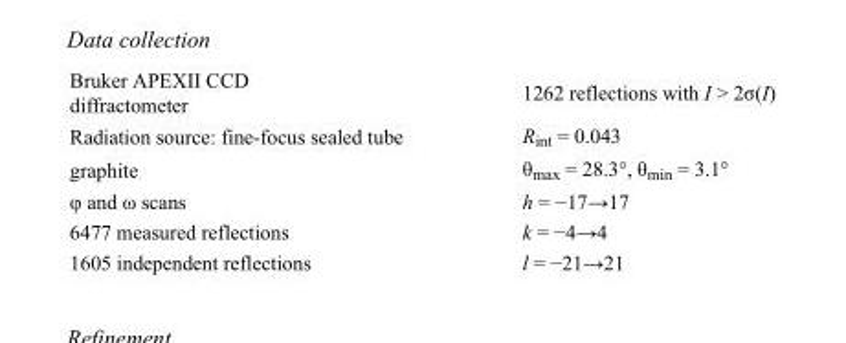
<table><tbody><tr><td>Bruker APEXII CCD diffractometer</td><td>1262 reflections with I &gt; 2σ(I)</td></tr><tr><td>Radiation source: fine-focus sealed tube</td><td>R<sub>int</sub> = 0.043</td></tr><tr><td>graphite</td><td>θ<sub>max</sub> = 28.3°, θ<sub>min</sub> = 3.1°</td></tr><tr><td>φ and ω scans</td><td>h = −17→17</td></tr><tr><td>6477 measured reflections</td><td>k = −4→4</td></tr><tr><td>1605 independent reflections</td><td>l = −21→21</td></tr></tbody></table>